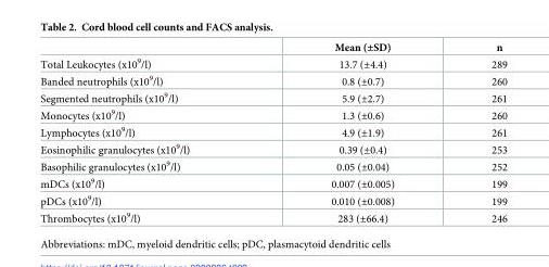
<table><thead><tr><td></td><td>Mean (±SD)</td><td>n</td></tr></thead><tbody><tr><td>Total Leukocytes (x10<sup>9</sup>/l)</td><td>13.7 (±4.4)</td><td>289</td></tr><tr><td>Banded neutrophils (x10<sup>9</sup>/l)</td><td>0.8 (±0.7)</td><td>260</td></tr><tr><td>Segmented neutrophils (x10<sup>9</sup>/l)</td><td>5.9 (±2.7)</td><td>261</td></tr><tr><td>Monocytes (x10<sup>9</sup>/l)</td><td>1.3 (±0.6)</td><td>260</td></tr><tr><td>Lymphocytes (x10<sup>9</sup>/l)</td><td>4.9 (±1.9)</td><td>261</td></tr><tr><td>Eosinophilic granulocytes (x10<sup>9</sup>/l)</td><td>0.39 (±0.4)</td><td>253</td></tr><tr><td>Basophilic granulocytes (x10<sup>9</sup>/l)</td><td>0.05 (±0.04)</td><td>252</td></tr><tr><td>mDCs (x10<sup>9</sup>/l)</td><td>0.007 (±0.005)</td><td>199</td></tr><tr><td>pDCs (x10<sup>9</sup>/l)</td><td>0.010 (±0.008)</td><td>199</td></tr><tr><td>Thrombocytes (x10<sup>9</sup>/l)</td><td>283 (±66.4)</td><td>246</td></tr></tbody></table>